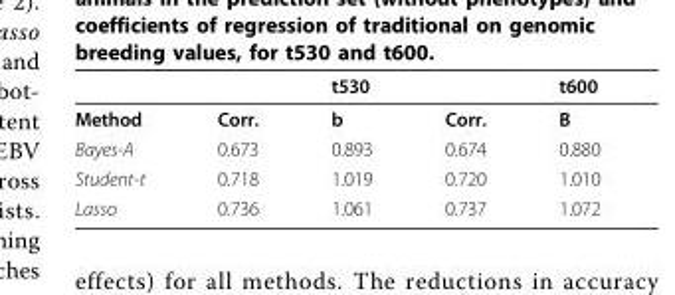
<table><thead><tr><td></td><td></td><td>t530</td><td></td><td>t600</td></tr></thead><tbody><tr><td>Method</td><td>Corr.</td><td>b</td><td>Corr.</td><td>B</td></tr><tr><td>Bayes-A</td><td>0.673</td><td>0.893</td><td>0.674</td><td>0.880</td></tr><tr><td>Student-t</td><td>0.718</td><td>1.019</td><td>0.720</td><td>1.010</td></tr><tr><td>Lasso</td><td>0.736</td><td>1.061</td><td>0.737</td><td>1.072</td></tr></tbody></table>